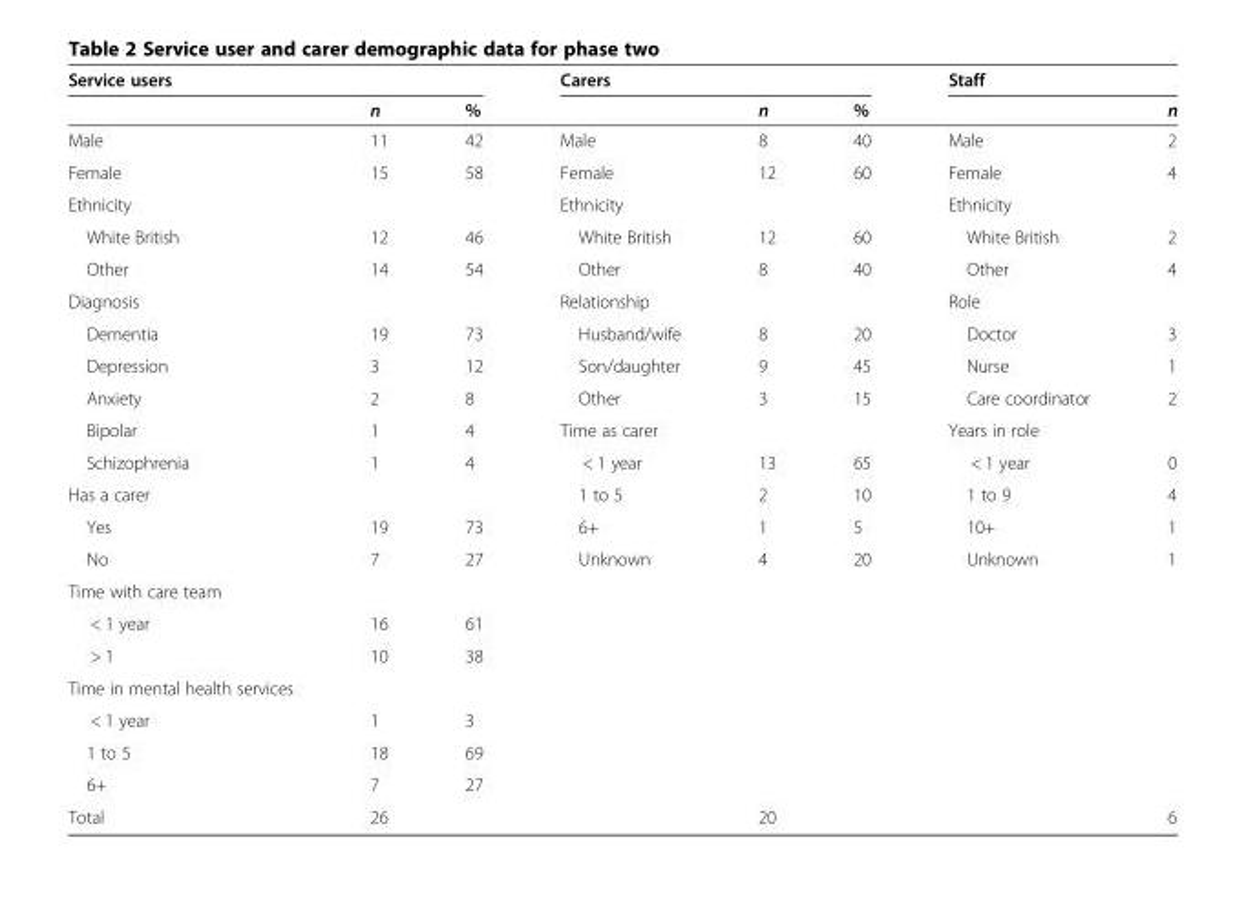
<table><thead><tr><td colspan="3">Service users</td><td colspan="3">Carers</td><td colspan="2">Staff</td></tr><tr><td></td><td>n</td><td>%</td><td></td><td>n</td><td>%</td><td></td><td>n</td></tr></thead><tbody><tr><td>Male</td><td>11</td><td>42</td><td>Male</td><td>8</td><td>40</td><td>Male</td><td>2</td></tr><tr><td>Female</td><td>15</td><td>58</td><td>Female</td><td>12</td><td>60</td><td>Female</td><td>4</td></tr><tr><td>Ethnicity</td><td></td><td></td><td>Ethnicity</td><td></td><td></td><td>Ethnicity</td><td></td></tr><tr><td>White British</td><td>12</td><td>46</td><td>White British</td><td>12</td><td>60</td><td>White British</td><td>2</td></tr><tr><td>Other</td><td>14</td><td>54</td><td>Other</td><td>8</td><td>40</td><td>Other</td><td>4</td></tr><tr><td>Diagnosis</td><td></td><td></td><td>Relationship</td><td></td><td></td><td>Role</td><td></td></tr><tr><td>Dementia</td><td>19</td><td>73</td><td>Husband/wife</td><td>8</td><td>20</td><td>Doctor</td><td>3</td></tr><tr><td>Depression</td><td>3</td><td>12</td><td>Son/daughter</td><td>9</td><td>45</td><td>Nurse</td><td>1</td></tr><tr><td>Anxiety</td><td>2</td><td>8</td><td>Other</td><td>3</td><td>15</td><td>Care coordinator</td><td>2</td></tr><tr><td>Bipolar</td><td>1</td><td>4</td><td>Time as carer</td><td></td><td></td><td>Years in role</td><td></td></tr><tr><td>Schizophrenia</td><td>1</td><td>4</td><td>&lt; 1 year</td><td>13</td><td>65</td><td>&lt; 1 year</td><td>0</td></tr><tr><td>Has a carer</td><td></td><td></td><td>1 to 5</td><td>2</td><td>10</td><td>1 to 9</td><td>4</td></tr><tr><td>Yes</td><td>19</td><td>73</td><td>6+</td><td>1</td><td>5</td><td>10+</td><td>1</td></tr><tr><td>No</td><td>7</td><td>27</td><td>Unknown</td><td>4</td><td>20</td><td>Unknown</td><td>1</td></tr><tr><td colspan="8">Time with care team</td></tr><tr><td>&lt; 1 year</td><td>16</td><td>61</td><td></td><td></td><td></td><td></td><td></td></tr><tr><td>&gt; 1</td><td>10</td><td>38</td><td></td><td></td><td></td><td></td><td></td></tr><tr><td colspan="8">Time in mental health services</td></tr><tr><td>&lt; 1 year</td><td>1</td><td>3</td><td></td><td></td><td></td><td></td><td></td></tr><tr><td>1 to 5</td><td>18</td><td>69</td><td></td><td></td><td></td><td></td><td></td></tr><tr><td>6+</td><td>7</td><td>27</td><td></td><td></td><td></td><td></td><td></td></tr><tr><td>Total</td><td>26</td><td></td><td></td><td>20</td><td></td><td></td><td>6</td></tr></tbody></table>